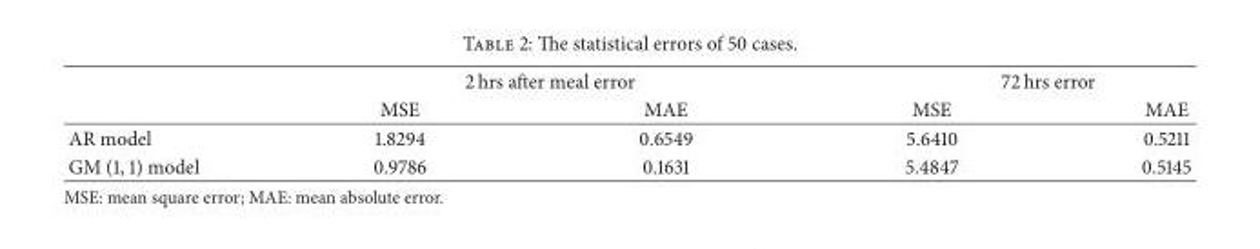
<table><thead><tr><td rowspan="2"></td><td colspan="2">2 hrs after meal error</td><td colspan="2">72 hrs error</td></tr><tr><td>MSE</td><td>MAE</td><td>MSE</td><td>MAE</td></tr></thead><tbody><tr><td>AR model</td><td>1.8294</td><td>0.6549</td><td>5.6410</td><td>0.5211</td></tr><tr><td>GM (1, 1) model</td><td>0.9786</td><td>0.1631</td><td>5.4847</td><td>0.5145</td></tr></tbody></table>